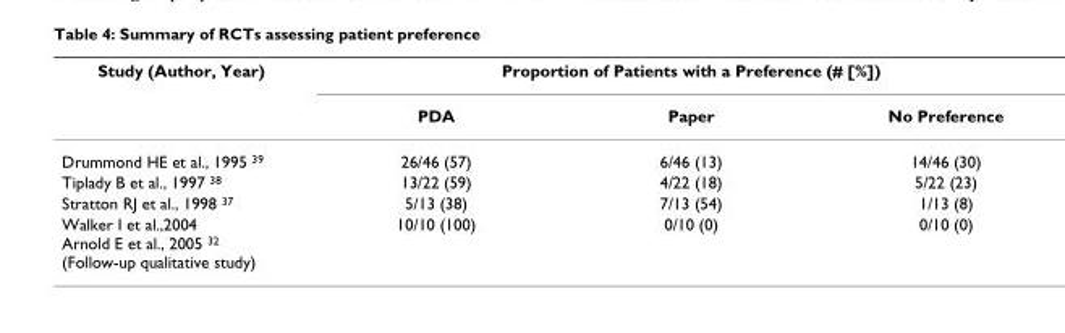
<table><thead><tr><td rowspan="2">Study (Author, Year)</td><td colspan="3">Proportion of Patients with a Preference (# [%])</td></tr><tr><td>PDA</td><td>Paper</td><td>No Preference</td></tr></thead><tbody><tr><td>Drummond HE et al., 1995 <sup>39</sup></td><td>26/46 (57)</td><td>6/46 (13)</td><td>14/46 (30)</td></tr><tr><td>Tiplady B et al., 1997 <sup>38</sup></td><td>13/22 (59)</td><td>4/22 (18)</td><td>5/22 (23)</td></tr><tr><td>Stratton RJ et al., 1998 <sup>37</sup></td><td>5/13 (38)</td><td>7/13 (54)</td><td>1/13 (8)</td></tr><tr><td>Walker I et al.,2004 Arnold E et al., 2005 <sup>32</sup> (Follow-up qualitative study)</td><td>10/10 (100)</td><td>0/10 (0)</td><td>0/10 (0)</td></tr></tbody></table>